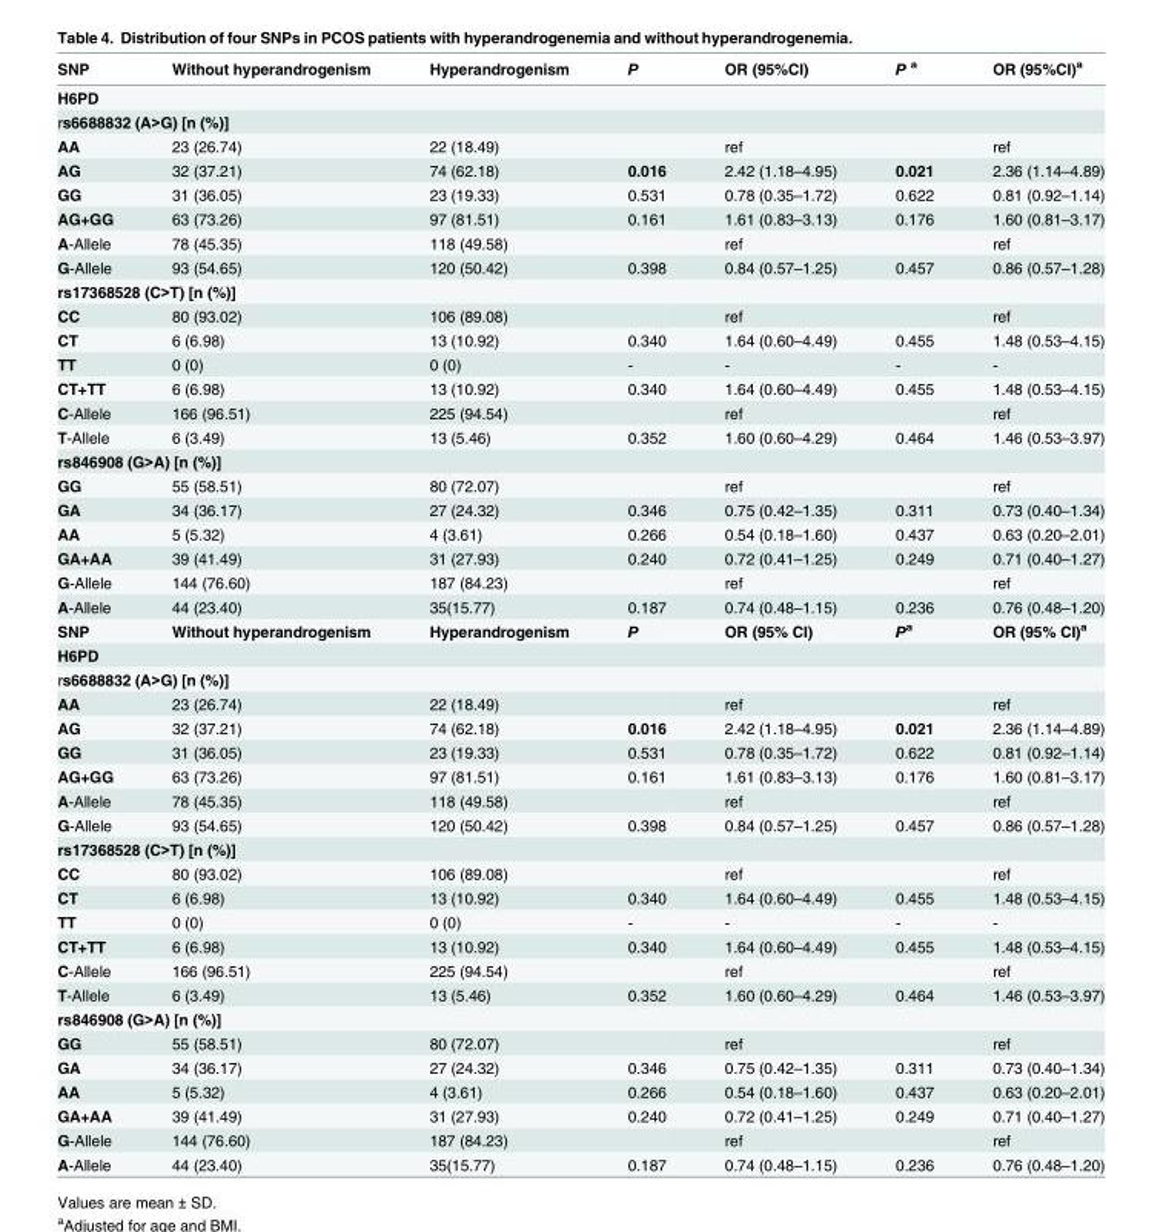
<table><thead><tr><td>SNP</td><td>Without hyperandrogenism</td><td>Hyperandrogenism</td><td>P</td><td>OR (95%CI)</td><td>P <sup>a</sup></td><td>OR (95%CI)<sup>a</sup></td></tr></thead><tbody><tr><td colspan="7">H6PD</td></tr><tr><td colspan="7">rs6688832 (A&gt;G) [n (%)]</td></tr><tr><td>AA</td><td>23 (26.74)</td><td>22 (18.49)</td><td></td><td>ref</td><td></td><td>ref</td></tr><tr><td>AG</td><td>32 (37.21)</td><td>74 (62.18)</td><td>0.016</td><td>2.42 (1.18–4.95)</td><td>0.021</td><td>2.36 (1.14–4.89)</td></tr><tr><td>GG</td><td>31 (36.05)</td><td>23 (19.33)</td><td>0.531</td><td>0.78 (0.35–1.72)</td><td>0.622</td><td>0.81 (0.92–1.14)</td></tr><tr><td>AG+GG</td><td>63 (73.26)</td><td>97 (81.51)</td><td>0.161</td><td>1.61 (0.83–3.13)</td><td>0.176</td><td>1.60 (0.81–3.17)</td></tr><tr><td>A-Allele</td><td>78 (45.35)</td><td>118 (49.58)</td><td></td><td>ref</td><td></td><td>ref</td></tr><tr><td>G-Allele</td><td>93 (54.65)</td><td>120 (50.42)</td><td>0.398</td><td>0.84 (0.57–1.25)</td><td>0.457</td><td>0.86 (0.57–1.28)</td></tr><tr><td colspan="7">rs17368528 (C&gt;T) [n (%)]</td></tr><tr><td>CC</td><td>80 (93.02)</td><td>106 (89.08)</td><td></td><td>ref</td><td></td><td>ref</td></tr><tr><td>CT</td><td>6 (6.98)</td><td>13 (10.92)</td><td>0.340</td><td>1.64 (0.60–4.49)</td><td>0.455</td><td>1.48 (0.53–4.15)</td></tr><tr><td>TT</td><td>0 (0)</td><td>0 (0)</td><td>-</td><td>-</td><td>-</td><td>-</td></tr><tr><td>CT+TT</td><td>6 (6.98)</td><td>13 (10.92)</td><td>0.340</td><td>1.64 (0.60–4.49)</td><td>0.455</td><td>1.48 (0.53–4.15)</td></tr><tr><td>C-Allele</td><td>166 (96.51)</td><td>225 (94.54)</td><td></td><td>ref</td><td></td><td>ref</td></tr><tr><td>T-Allele</td><td>6 (3.49)</td><td>13 (5.46)</td><td>0.352</td><td>1.60 (0.60–4.29)</td><td>0.464</td><td>1.46 (0.53–3.97)</td></tr><tr><td colspan="7">rs846908 (G&gt;A) [n (%)]</td></tr><tr><td>GG</td><td>55 (58.51)</td><td>80 (72.07)</td><td></td><td>ref</td><td></td><td>ref</td></tr><tr><td>GA</td><td>34 (36.17)</td><td>27 (24.32)</td><td>0.346</td><td>0.75 (0.42–1.35)</td><td>0.311</td><td>0.73 (0.40–1.34)</td></tr><tr><td>AA</td><td>5 (5.32)</td><td>4 (3.61)</td><td>0.266</td><td>0.54 (0.18–1.60)</td><td>0.437</td><td>0.63 (0.20–2.01)</td></tr><tr><td>GA+AA</td><td>39 (41.49)</td><td>31 (27.93)</td><td>0.240</td><td>0.72 (0.41–1.25)</td><td>0.249</td><td>0.71 (0.40–1.27)</td></tr><tr><td>G-Allele</td><td>144 (76.60)</td><td>187 (84.23)</td><td></td><td>ref</td><td></td><td>ref</td></tr><tr><td>A-Allele</td><td>44 (23.40)</td><td>35(15.77)</td><td>0.187</td><td>0.74 (0.48–1.15)</td><td>0.236</td><td>0.76 (0.48–1.20)</td></tr><tr><td>SNP</td><td>Without hyperandrogenism</td><td>Hyperandrogenism</td><td>P</td><td>OR (95% CI)</td><td>P<sup>a</sup></td><td>OR (95% CI)<sup>a</sup></td></tr><tr><td colspan="7">H6PD</td></tr><tr><td colspan="7">rs6688832 (A&gt;G) [n (%)]</td></tr><tr><td>AA</td><td>23 (26.74)</td><td>22 (18.49)</td><td></td><td>ref</td><td></td><td>ref</td></tr><tr><td>AG</td><td>32 (37.21)</td><td>74 (62.18)</td><td>0.016</td><td>2.42 (1.18–4.95)</td><td>0.021</td><td>2.36 (1.14–4.89)</td></tr><tr><td>GG</td><td>31 (36.05)</td><td>23 (19.33)</td><td>0.531</td><td>0.78 (0.35–1.72)</td><td>0.622</td><td>0.81 (0.92–1.14)</td></tr><tr><td>AG+GG</td><td>63 (73.26)</td><td>97 (81.51)</td><td>0.161</td><td>1.61 (0.83–3.13)</td><td>0.176</td><td>1.60 (0.81–3.17)</td></tr><tr><td>A-Allele</td><td>78 (45.35)</td><td>118 (49.58)</td><td></td><td>ref</td><td></td><td>ref</td></tr><tr><td>G-Allele</td><td>93 (54.65)</td><td>120 (50.42)</td><td>0.398</td><td>0.84 (0.57–1.25)</td><td>0.457</td><td>0.86 (0.57–1.28)</td></tr><tr><td colspan="7">rs17368528 (C&gt;T) [n (%)]</td></tr><tr><td>CC</td><td>80 (93.02)</td><td>106 (89.08)</td><td></td><td>ref</td><td></td><td>ref</td></tr><tr><td>CT</td><td>6 (6.98)</td><td>13 (10.92)</td><td>0.340</td><td>1.64 (0.60–4.49)</td><td>0.455</td><td>1.48 (0.53–4.15)</td></tr><tr><td>TT</td><td>0 (0)</td><td>0 (0)</td><td>-</td><td>-</td><td>-</td><td>-</td></tr><tr><td>CT+TT</td><td>6 (6.98)</td><td>13 (10.92)</td><td>0.340</td><td>1.64 (0.60–4.49)</td><td>0.455</td><td>1.48 (0.53–4.15)</td></tr><tr><td>C-Allele</td><td>166 (96.51)</td><td>225 (94.54)</td><td></td><td>ref</td><td></td><td>ref</td></tr><tr><td>T-Allele</td><td>6 (3.49)</td><td>13 (5.46)</td><td>0.352</td><td>1.60 (0.60–4.29)</td><td>0.464</td><td>1.46 (0.53–3.97)</td></tr><tr><td colspan="7">rs846908 (G&gt;A) [n (%)]</td></tr><tr><td>GG</td><td>55 (58.51)</td><td>80 (72.07)</td><td></td><td>ref</td><td></td><td>ref</td></tr><tr><td>GA</td><td>34 (36.17)</td><td>27 (24.32)</td><td>0.346</td><td>0.75 (0.42–1.35)</td><td>0.311</td><td>0.73 (0.40–1.34)</td></tr><tr><td>AA</td><td>5 (5.32)</td><td>4 (3.61)</td><td>0.266</td><td>0.54 (0.18–1.60)</td><td>0.437</td><td>0.63 (0.20–2.01)</td></tr><tr><td>GA+AA</td><td>39 (41.49)</td><td>31 (27.93)</td><td>0.240</td><td>0.72 (0.41–1.25)</td><td>0.249</td><td>0.71 (0.40–1.27)</td></tr><tr><td>G-Allele</td><td>144 (76.60)</td><td>187 (84.23)</td><td></td><td>ref</td><td></td><td>ref</td></tr><tr><td>A-Allele</td><td>44 (23.40)</td><td>35(15.77)</td><td>0.187</td><td>0.74 (0.48–1.15)</td><td>0.236</td><td>0.76 (0.48–1.20)</td></tr></tbody></table>